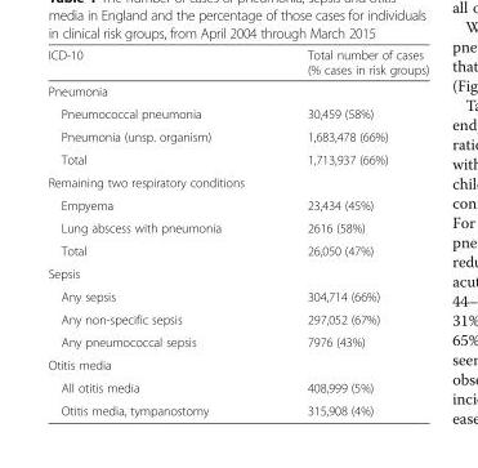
<table><thead><tr><td>ICD-10</td><td>Total number of cases (% cases in risk groups)</td></tr></thead><tbody><tr><td colspan="2">Pneumonia</td></tr><tr><td>Pneumococcal pneumonia</td><td>30,459 (58%)</td></tr><tr><td>Pneumonia (unsp. organism)</td><td>1,683,478 (66%)</td></tr><tr><td>Total</td><td>1,713,937 (66%)</td></tr><tr><td colspan="2">Remaining two respiratory conditions</td></tr><tr><td>Empyema</td><td>23,434 (45%)</td></tr><tr><td>Lung abscess with pneumonia</td><td>2616 (58%)</td></tr><tr><td>Total</td><td>26,050 (47%)</td></tr><tr><td colspan="2">Sepsis</td></tr><tr><td>Any sepsis</td><td>304,714 (66%)</td></tr><tr><td>Any non-specific sepsis</td><td>297,052 (67%)</td></tr><tr><td>Any pneumococcal sepsis</td><td>7976 (43%)</td></tr><tr><td colspan="2">Otitis media</td></tr><tr><td>All otitis media</td><td>408,999 (5%)</td></tr><tr><td>Otitis media, tympanostomy</td><td>315,908 (4%)</td></tr></tbody></table>